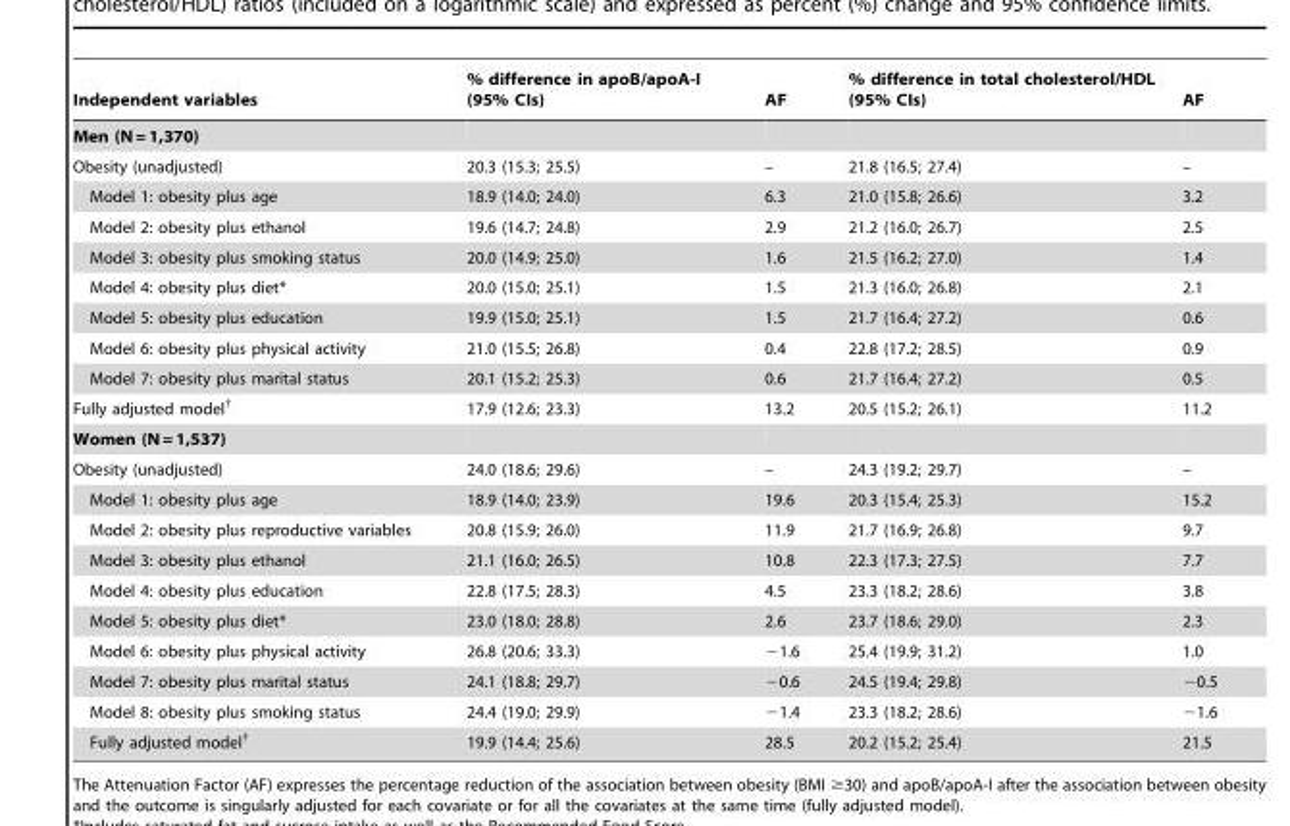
<table><thead><tr><td>Independent variables</td><td>% difference in apoB/apoA-I (95% CIs)</td><td>AF</td><td>% difference in total cholesterol/HDL (95% CIs)</td><td>AF</td></tr></thead><tbody><tr><td colspan="5">Men (N = 1,370)</td></tr><tr><td>Obesity (unadjusted)</td><td>20.3 (15.3; 25.5)</td><td>–</td><td>21.8 (16.5; 27.4)</td><td>–</td></tr><tr><td>Model 1: obesity plus age</td><td>18.9 (14.0; 24.0)</td><td>6.3</td><td>21.0 (15.8; 26.6)</td><td>3.2</td></tr><tr><td>Model 2: obesity plus ethanol</td><td>19.6 (14.7; 24.8)</td><td>2.9</td><td>21.2 (16.0; 26.7)</td><td>2.5</td></tr><tr><td>Model 3: obesity plus smoking status</td><td>20.0 (14.9; 25.0)</td><td>1.6</td><td>21.5 (16.2; 27.0)</td><td>1.4</td></tr><tr><td>Model 4: obesity plus diet*</td><td>20.0 (15.0; 25.1)</td><td>1.5</td><td>21.3 (16.0; 26.8)</td><td>2.1</td></tr><tr><td>Model 5: obesity plus education</td><td>19.9 (15.0; 25.1)</td><td>1.5</td><td>21.7 (16.4; 27.2)</td><td>0.6</td></tr><tr><td>Model 6: obesity plus physical activity</td><td>21.0 (15.5; 26.8)</td><td>0.4</td><td>22.8 (17.2; 28.5)</td><td>0.9</td></tr><tr><td>Model 7: obesity plus marital status</td><td>20.1 (15.2; 25.3)</td><td>0.6</td><td>21.7 (16.4; 27.2)</td><td>0.5</td></tr><tr><td>Fully adjusted model†</td><td>17.9 (12.6; 23.3)</td><td>13.2</td><td>20.5 (15.2; 26.1)</td><td>11.2</td></tr><tr><td colspan="5">Women (N = 1,537)</td></tr><tr><td>Obesity (unadjusted)</td><td>24.0 (18.6; 29.6)</td><td>–</td><td>24.3 (19.2; 29.7)</td><td>–</td></tr><tr><td>Model 1: obesity plus age</td><td>18.9 (14.0; 23.9)</td><td>19.6</td><td>20.3 (15.4; 25.3)</td><td>15.2</td></tr><tr><td>Model 2: obesity plus reproductive variables</td><td>20.8 (15.9; 26.0)</td><td>11.9</td><td>21.7 (16.9; 26.8)</td><td>9.7</td></tr><tr><td>Model 3: obesity plus ethanol</td><td>21.1 (16.0; 26.5)</td><td>10.8</td><td>22.3 (17.3; 27.5)</td><td>7.7</td></tr><tr><td>Model 4: obesity plus education</td><td>22.8 (17.5; 28.3)</td><td>4.5</td><td>23.3 (18.2; 28.6)</td><td>3.8</td></tr><tr><td>Model 5: obesity plus diet*</td><td>23.0 (18.0; 28.8)</td><td>2.6</td><td>23.7 (18.6; 29.0)</td><td>2.3</td></tr><tr><td>Model 6: obesity plus physical activity</td><td>26.8 (20.6; 33.3)</td><td>−1.6</td><td>25.4 (19.9; 31.2)</td><td>1.0</td></tr><tr><td>Model 7: obesity plus marital status</td><td>24.1 (18.8; 29.7)</td><td>−0.6</td><td>24.5 (19.4; 29.8)</td><td>−0.5</td></tr><tr><td>Model 8: obesity plus smoking status</td><td>24.4 (19.0; 29.9)</td><td>−1.4</td><td>23.3 (18.2; 28.6)</td><td>−1.6</td></tr><tr><td>Fully adjusted model†</td><td>19.9 (14.4; 25.6)</td><td>28.5</td><td>20.2 (15.2; 25.4)</td><td>21.5</td></tr></tbody></table>